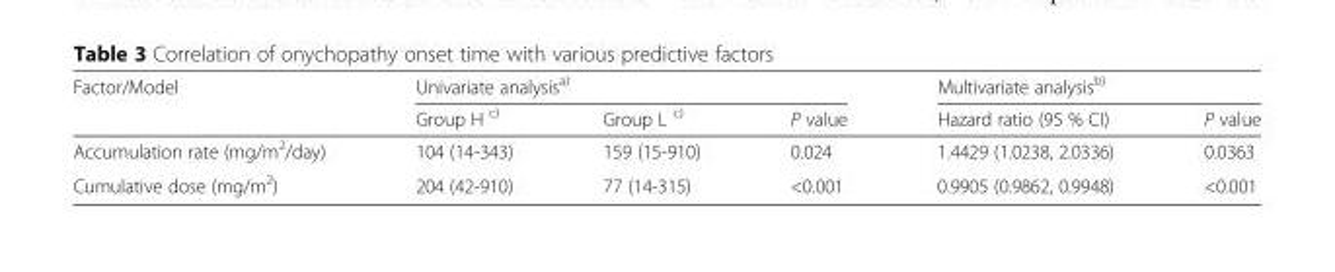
<table><thead><tr><td rowspan="2">Factor/Model</td><td colspan="3">Univariate analysis<sup>a)</sup></td><td colspan="2">Multivariate analysis<sup>b)</sup></td></tr><tr><td>Group H <sup>c)</sup></td><td>Group L <sup>c)</sup></td><td>P value</td><td>Hazard ratio (95 % CI)</td><td>P value</td></tr></thead><tbody><tr><td>Accumulation rate (mg/m<sup>2</sup>/day)</td><td>104 (14-343)</td><td>159 (15-910)</td><td>0.024</td><td>1.4429 (1.0238, 2.0336)</td><td>0.0363</td></tr><tr><td>Cumulative dose (mg/m<sup>2</sup>)</td><td>204 (42-910)</td><td>77 (14-315)</td><td>&lt;0.001</td><td>0.9905 (0.9862, 0.9948)</td><td>&lt;0.001</td></tr></tbody></table>